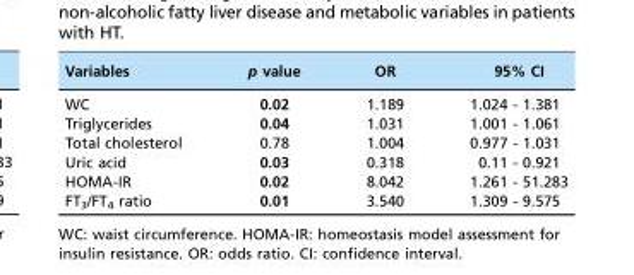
<table><thead><tr><td>Variables</td><td>p value</td><td>OR</td><td>95% CI</td></tr></thead><tbody><tr><td>WC</td><td>0.02</td><td>1.189</td><td>1.024 - 1.381</td></tr><tr><td>Triglycerides</td><td>0.04</td><td>1.031</td><td>1.001 - 1.061</td></tr><tr><td>Total cholesterol</td><td>0.78</td><td>1.004</td><td>0.977 - 1.031</td></tr><tr><td>Uric acid</td><td>0.03</td><td>0.318</td><td>0.11 - 0.921</td></tr><tr><td>HOMA-IR</td><td>0.02</td><td>8.042</td><td>1.261 - 51.283</td></tr><tr><td>FT<sub>3</sub>/FT<sub>4</sub> ratio</td><td>0.01</td><td>3.540</td><td>1.309 - 9.575</td></tr></tbody></table>